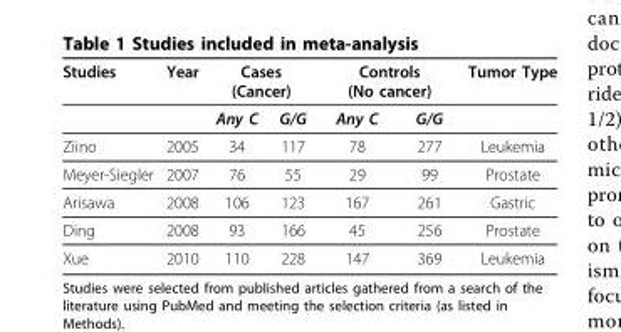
<table><thead><tr><td rowspan="2">Studies</td><td rowspan="2">Year</td><td colspan="2">Cases (Cancer)</td><td colspan="2">Controls (No cancer)</td><td rowspan="2">Tumor Type</td></tr><tr><td>Any C</td><td>G/G</td><td>Any C</td><td>G/G</td></tr></thead><tbody><tr><td>Ziino</td><td>2005</td><td>34</td><td>117</td><td>78</td><td>277</td><td>Leukemia</td></tr><tr><td>Meyer-Siegler</td><td>2007</td><td>76</td><td>55</td><td>29</td><td>99</td><td>Prostate</td></tr><tr><td>Arisawa</td><td>2008</td><td>106</td><td>123</td><td>167</td><td>261</td><td>Gastric</td></tr><tr><td>Ding</td><td>2008</td><td>93</td><td>166</td><td>45</td><td>256</td><td>Prostate</td></tr><tr><td>Xue</td><td>2010</td><td>110</td><td>228</td><td>147</td><td>369</td><td>Leukemia</td></tr></tbody></table>